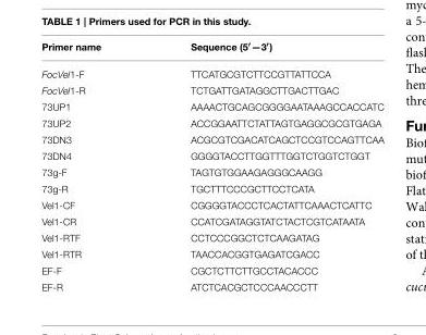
<table><thead><tr><td>Primer name</td><td>Sequence (5′—3′)</td></tr></thead><tbody><tr><td>FocVel1-F</td><td>TTCATGCGTCTTCCGTTATTCCA</td></tr><tr><td>FocVel1-R</td><td>TCTGATTGATAGGCTTGACTTGAC</td></tr><tr><td>73UP1</td><td>AAAACTGCAGCGGGGAATAAAGCCACCATC</td></tr><tr><td>73UP2</td><td>ACCGGAATTCTATTAGTGAGGCGCGTGAGA</td></tr><tr><td>73DN3</td><td>ACGCGTCGACATCAGCTCCGTCCAGTTCAA</td></tr><tr><td>73DN4</td><td>GGGGTACCTTGGTTTGGTCTGGTCTGGT</td></tr><tr><td>73g-F</td><td>TAGTGTGGAAGAGGGCAAGG</td></tr><tr><td>73g-R</td><td>TGCTTTCCCGCTTCCTCATA</td></tr><tr><td>Vel1-CF</td><td>CGGGGTACCCTCACTATTCAAACTCATTC</td></tr><tr><td>Vel1-CR</td><td>CCATCGATAGGTATCTACTCGTCATAATA</td></tr><tr><td>Vel1-RTF</td><td>CCTCCCGGCTCTCAAGATAG</td></tr><tr><td>Vel1-RTR</td><td>TAACCACGGTGAGATCGACC</td></tr><tr><td>EF-F</td><td>CGCTCTTCTTGCCTACACCC</td></tr><tr><td>EF-R</td><td>ATCTCACGCTCCCAACCCTT</td></tr></tbody></table>